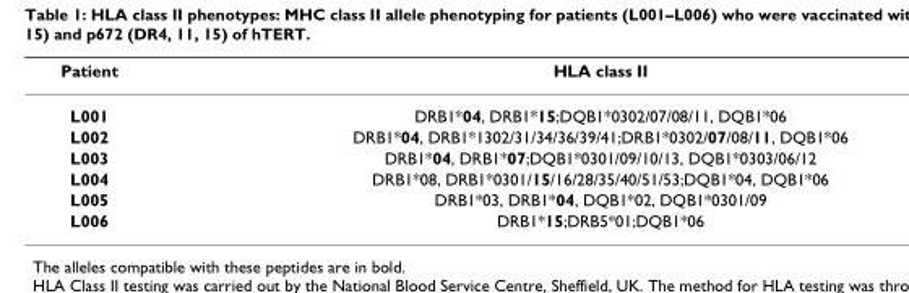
<table><thead><tr><td>Patient</td><td>HLA class II</td></tr></thead><tbody><tr><td>L001</td><td>DRB1*04, DRB1*15;DQB1*0302/07/08/11, DQB1*06</td></tr><tr><td>L002</td><td>DRB1*04, DRB1*1302/31/34/36/39/41;DRB1*0302/07/08/11, DQB1*06</td></tr><tr><td>L003</td><td>DRB1*04, DRB1*07;DQB1*0301/09/10/13, DQB1*0303/06/12</td></tr><tr><td>L004</td><td>DRB1*08, DRB1*0301/15/16/28/35/40/51/53;DQB1*04, DQB1*06</td></tr><tr><td>L005</td><td>DRB1*03, DRB1*04, DQB1*02, DQB1*0301/09</td></tr><tr><td>L006</td><td>DRB1*15;DRB5*01;DQB1*06</td></tr></tbody></table>